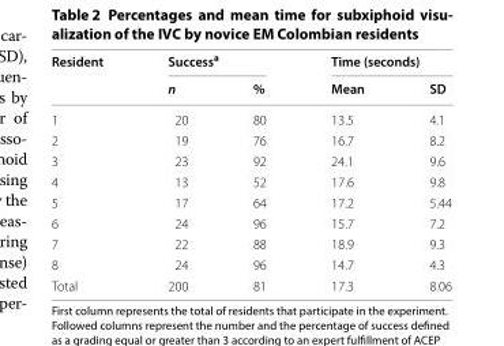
<table><thead><tr><td rowspan="2">Resident</td><td colspan="2">Success<sup>a</sup></td><td colspan="2">Time (seconds)</td></tr><tr><td>n</td><td>%</td><td>Mean</td><td>SD</td></tr></thead><tbody><tr><td>1</td><td>20</td><td>80</td><td>13.5</td><td>4.1</td></tr><tr><td>2</td><td>19</td><td>76</td><td>16.7</td><td>8.2</td></tr><tr><td>3</td><td>23</td><td>92</td><td>24.1</td><td>9.6</td></tr><tr><td>4</td><td>13</td><td>52</td><td>17.6</td><td>9.8</td></tr><tr><td>5</td><td>17</td><td>64</td><td>17.2</td><td>5.44</td></tr><tr><td>6</td><td>24</td><td>96</td><td>15.7</td><td>7.2</td></tr><tr><td>7</td><td>22</td><td>88</td><td>18.9</td><td>9.3</td></tr><tr><td>8</td><td>24</td><td>96</td><td>14.7</td><td>4.3</td></tr><tr><td>Total</td><td>200</td><td>81</td><td>17.3</td><td>8.06</td></tr></tbody></table>